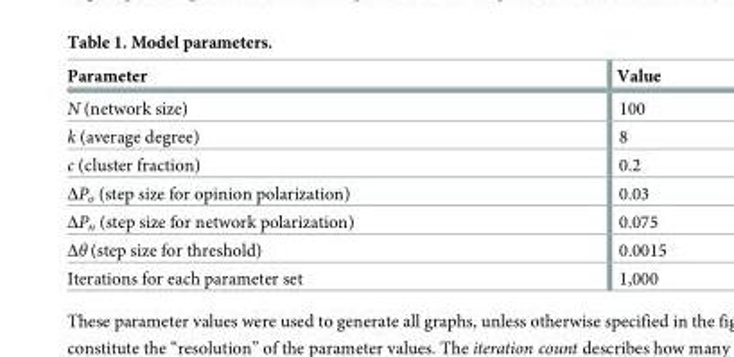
<table><thead><tr><td>Parameter</td><td>Value</td></tr></thead><tbody><tr><td>N (network size)</td><td>100</td></tr><tr><td>k (average degree)</td><td>8</td></tr><tr><td>c (cluster fraction)</td><td>0.2</td></tr><tr><td>ΔP<sub>o</sub> (step size for opinion polarization)</td><td>0.03</td></tr><tr><td>ΔP<sub>n</sub> (step size for network polarization)</td><td>0.075</td></tr><tr><td>Δθ (step size for threshold)</td><td>0.0015</td></tr><tr><td>Iterations for each parameter set</td><td>1,000</td></tr></tbody></table>